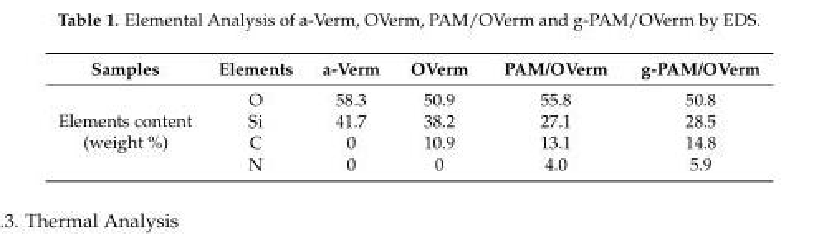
<table><thead><tr><td>Samples</td><td>Elements</td><td>a-Verm</td><td>OVerm</td><td>PAM/OVerm</td><td>g-PAM/OVerm</td></tr></thead><tbody><tr><td rowspan="4">Elements content (weight %)</td><td>O</td><td>58.3</td><td>50.9</td><td>55.8</td><td>50.8</td></tr><tr><td>Si</td><td>41.7</td><td>38.2</td><td>27.1</td><td>28.5</td></tr><tr><td>C</td><td>0</td><td>10.9</td><td>13.1</td><td>14.8</td></tr><tr><td>N</td><td>0</td><td>0</td><td>4.0</td><td>5.9</td></tr></tbody></table>